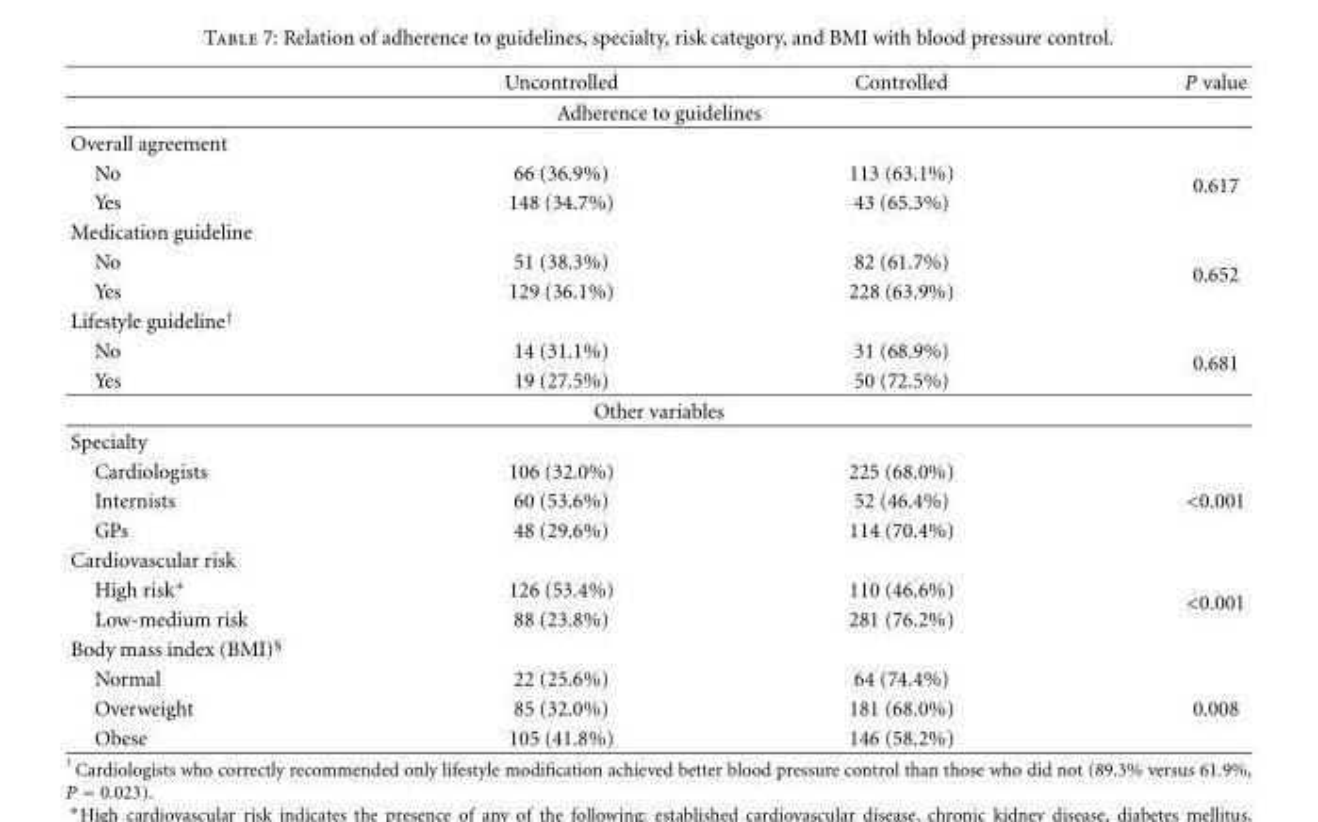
<table><thead><tr><td></td><td>Uncontrolled</td><td>Controlled</td><td>P value</td></tr></thead><tbody><tr><td colspan="4">Adherence to guidelines</td></tr><tr><td colspan="4">Overall agreement</td></tr><tr><td>No</td><td>66 (36.9%)</td><td>113 (63.1%)</td><td rowspan="2">0.617</td></tr><tr><td>Yes</td><td>148 (34.7%)</td><td>43 (65.3%)</td></tr><tr><td colspan="4">Medication guideline</td></tr><tr><td>No</td><td>51 (38.3%)</td><td>82 (61.7%)</td><td rowspan="2">0.652</td></tr><tr><td>Yes</td><td>129 (36.1%)</td><td>228 (63.9%)</td></tr><tr><td colspan="4">Lifestyle guideline<sup>†</sup></td></tr><tr><td>No</td><td>14 (31.1%)</td><td>31 (68.9%)</td><td rowspan="2">0.681</td></tr><tr><td>Yes</td><td>19 (27.5%)</td><td>50 (72.5%)</td></tr><tr><td colspan="4">Other variables</td></tr><tr><td colspan="4">Specialty</td></tr><tr><td>Cardiologists</td><td>106 (32.0%)</td><td>225 (68.0%)</td><td></td></tr><tr><td>Internists</td><td>60 (53.6%)</td><td>52 (46.4%)</td><td>&lt;0.001</td></tr><tr><td>GPs</td><td>48 (29.6%)</td><td>114 (70.4%)</td><td></td></tr><tr><td colspan="4">Cardiovascular risk</td></tr><tr><td>High risk∗</td><td>126 (53.4%)</td><td>110 (46.6%)</td><td rowspan="2">&lt;0.001</td></tr><tr><td>Low-medium risk</td><td>88 (23.8%)</td><td>281 (76.2%)</td></tr><tr><td colspan="4">Body mass index (BMI)<sup>§</sup></td></tr><tr><td>Normal</td><td>22 (25.6%)</td><td>64 (74.4%)</td><td></td></tr><tr><td>Overweight</td><td>85 (32.0%)</td><td>181 (68.0%)</td><td>0.008</td></tr><tr><td>Obese</td><td>105 (41.8%)</td><td>146 (58.2%)</td><td></td></tr></tbody></table>